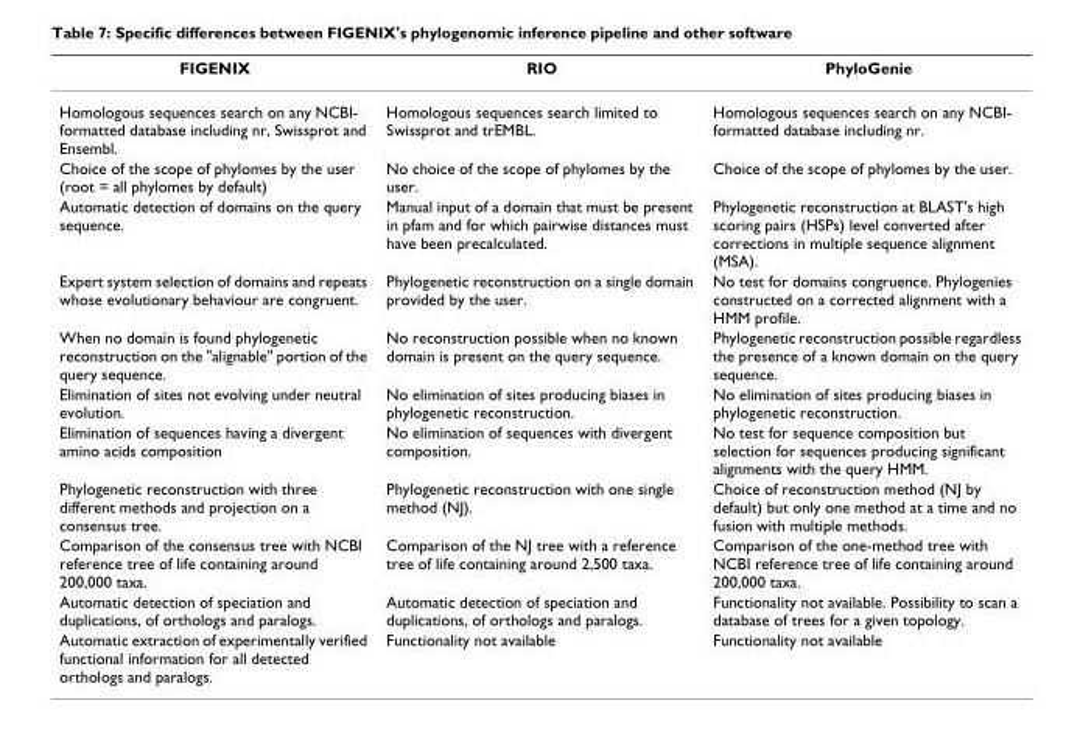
<table><thead><tr><td>FIGENIX</td><td>RIO</td><td>PhyloGenie</td></tr></thead><tbody><tr><td>Homologous sequences search on any NCBI- formatted database including nr, Swissprot and Ensembl.</td><td>Homologous sequences search limited to Swissprot and trEMBL.</td><td>Homologous sequences search on any NCBI- formatted database including nr.</td></tr><tr><td>Choice of the scope of phylomes by the user (root = all phylomes by default)</td><td>No choice of the scope of phylomes by the user.</td><td>Choice of the scope of phylomes by the user.</td></tr><tr><td>Automatic detection of domains on the query sequence.</td><td>Manual input of a domain that must be present in pfam and for which pairwise distances must have been precalculated.</td><td>Phylogenetic reconstruction at BLAST&#x27;s high scoring pairs (HSPs) level converted after corrections in multiple sequence alignment (MSA).</td></tr><tr><td>Expert system selection of domains and repeats whose evolutionary behaviour are congruent.</td><td>Phylogenetic reconstruction on a single domain provided by the user.</td><td>No test for domains congruence. Phylogenies constructed on a corrected alignment with a HMM profile.</td></tr><tr><td>When no domain is found phylogenetic reconstruction on the &quot;alignable&quot; portion of the query sequence.</td><td>No reconstruction possible when no known domain is present on the query sequence.</td><td>Phylogenetic reconstruction possible regardless the presence of a known domain on the query sequence.</td></tr><tr><td>Elimination of sites not evolving under neutral evolution.</td><td>No elimination of sites producing biases in phylogenetic reconstruction.</td><td>No elimination of sites producing biases in phylogenetic reconstruction.</td></tr><tr><td>Elimination of sequences having a divergent amino acids composition</td><td>No elimination of sequences with divergent composition.</td><td>No test for sequence composition but selection for sequences producing significant alignments with the query HMM.</td></tr><tr><td>Phylogenetic reconstruction with three different methods and projection on a consensus tree.</td><td>Phylogenetic reconstruction with one single method (NJ).</td><td>Choice of reconstruction method (NJ by default) but only one method at a time and no fusion with multiple methods.</td></tr><tr><td>Comparison of the consensus tree with NCBI reference tree of life containing around 200,000 taxa.</td><td>Comparison of the NJ tree with a reference tree of life containing around 2,500 taxa.</td><td>Comparison of the one-method tree with NCBI reference tree of life containing around 200,000 taxa.</td></tr><tr><td>Automatic detection of speciation and duplications, of orthologs and paralogs.</td><td>Automatic detection of speciation and duplications, of orthologs and paralogs.</td><td>Functionality not available. Possibility to scan a database of trees for a given topology.</td></tr><tr><td>Automatic extraction of experimentally verified functional information for all detected orthologs and paralogs.</td><td>Functionality not available</td><td>Functionality not available</td></tr></tbody></table>